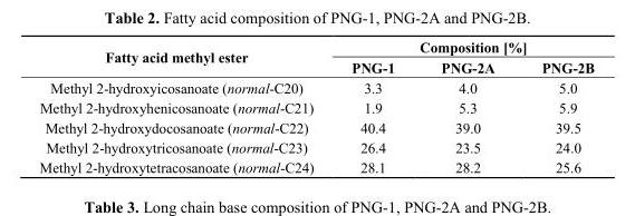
<table><thead><tr><td rowspan="2">Fatty acid methyl ester</td><td colspan="3">Composition [%]</td></tr><tr><td>PNG-1</td><td>PNG-2A</td><td>PNG-2B</td></tr></thead><tbody><tr><td>Methyl 2-hydroxyicosanoate (normal-C20)</td><td>3.3</td><td>4.0</td><td>5.0</td></tr><tr><td>Methyl 2-hydroxyhenicosanoate (normal-C21)</td><td>1.9</td><td>5.3</td><td>5.9</td></tr><tr><td>Methyl 2-hydroxydocosanoate (normal-C22)</td><td>40.4</td><td>39.0</td><td>39.5</td></tr><tr><td>Methyl 2-hydroxytricosanoate (normal-C23)</td><td>26.4</td><td>23.5</td><td>24.0</td></tr><tr><td>Methyl 2-hydroxytetracosanoate (normal-C24)</td><td>28.1</td><td>28.2</td><td>25.6</td></tr></tbody></table>